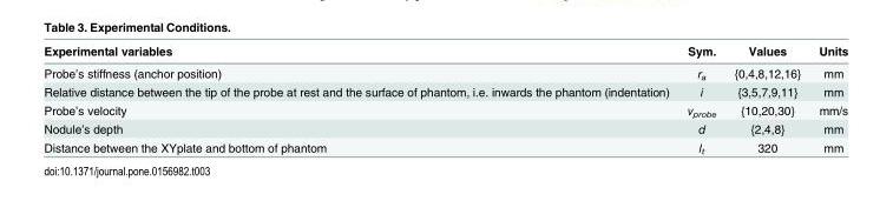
<table><thead><tr><td>Experimental variables</td><td>Sym.</td><td>Values</td><td>Units</td></tr></thead><tbody><tr><td>Probe’s stiffness (anchor position)</td><td>r<sub>a</sub></td><td>{0,4,8,12,16}</td><td>mm</td></tr><tr><td>Relative distance between the tip of the probe at rest and the surface of phantom, i.e. inwards the phantom (indentation)</td><td>i</td><td>{3,5,7,9,11}</td><td>mm</td></tr><tr><td>Probe’s velocity</td><td>v<sub>probe</sub></td><td>{10,20,30}</td><td>mm/s</td></tr><tr><td>Nodule’s depth</td><td>d</td><td>{2,4,8}</td><td>mm</td></tr><tr><td>Distance between the XYplate and bottom of phantom</td><td>l<sub>t</sub></td><td>320</td><td>mm</td></tr></tbody></table>